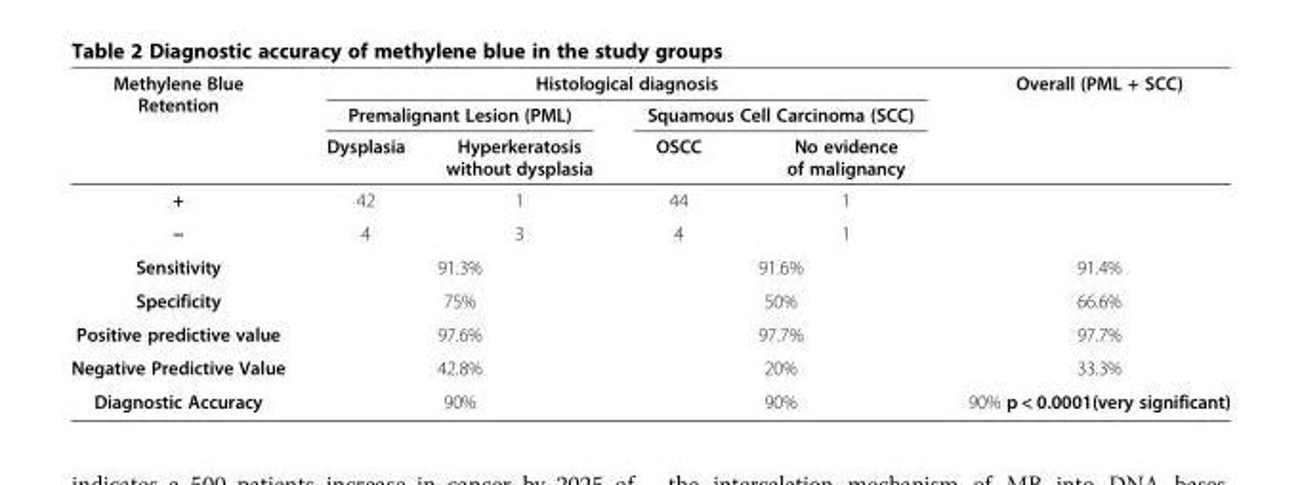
<table><thead><tr><td rowspan="3">Methylene Blue Retention</td><td colspan="4">Histological diagnosis</td><td rowspan="3">Overall (PML + SCC)</td></tr><tr><td colspan="2">Premalignant Lesion (PML)</td><td colspan="2">Squamous Cell Carcinoma (SCC)</td></tr><tr><td>Dysplasia</td><td>Hyperkeratosis without dysplasia</td><td>OSCC</td><td>No evidence of malignancy</td></tr></thead><tbody><tr><td>+</td><td>42</td><td>1</td><td>44</td><td>1</td><td></td></tr><tr><td>−</td><td>4</td><td>3</td><td>4</td><td>1</td><td></td></tr><tr><td>Sensitivity</td><td colspan="2">91.3%</td><td colspan="2">91.6%</td><td>91.4%</td></tr><tr><td>Specificity</td><td colspan="2">75%</td><td colspan="2">50%</td><td>66.6%</td></tr><tr><td>Positive predictive value</td><td colspan="2">97.6%</td><td colspan="2">97.7%</td><td>97.7%</td></tr><tr><td>Negative Predictive Value</td><td colspan="2">42.8%</td><td colspan="2">20%</td><td>33.3%</td></tr><tr><td>Diagnostic Accuracy</td><td colspan="2">90%</td><td colspan="2">90%</td><td>90% p &lt; 0.0001(very significant)</td></tr></tbody></table>